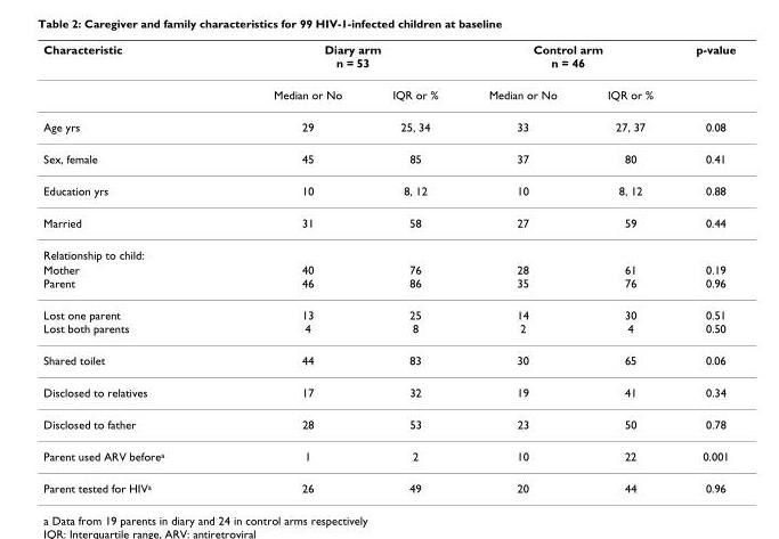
<table><thead><tr><td rowspan="2">Characteristic</td><td colspan="2">Diary arm n = 53</td><td colspan="2">Control arm n = 46</td><td rowspan="2">p-value</td></tr><tr><td>Median or No</td><td>IQR or %</td><td>Median or No</td><td>IQR or %</td></tr></thead><tbody><tr><td>Age yrs</td><td>29</td><td>25, 34</td><td>33</td><td>27, 37</td><td>0.08</td></tr><tr><td>Sex, female</td><td>45</td><td>85</td><td>37</td><td>80</td><td>0.41</td></tr><tr><td>Education yrs</td><td>10</td><td>8, 12</td><td>10</td><td>8, 12</td><td>0.88</td></tr><tr><td>Married</td><td>31</td><td>58</td><td>27</td><td>59</td><td>0.44</td></tr><tr><td colspan="6">Relationship to child:</td></tr><tr><td>Mother Parent</td><td>40 46</td><td>76 86</td><td>28 35</td><td>61 76</td><td>0.19 0.96</td></tr><tr><td>Lost one parent Lost both parents</td><td>13 4</td><td>25 8</td><td>14 2</td><td>30 4</td><td>0.51 0.50</td></tr><tr><td>Shared toilet</td><td>44</td><td>83</td><td>30</td><td>65</td><td>0.06</td></tr><tr><td>Disclosed to relatives</td><td>17</td><td>32</td><td>19</td><td>41</td><td>0.34</td></tr><tr><td>Disclosed to father</td><td>28</td><td>53</td><td>23</td><td>50</td><td>0.78</td></tr><tr><td>Parent used ARV before<sup>a</sup></td><td>1</td><td>2</td><td>10</td><td>22</td><td>0.001</td></tr><tr><td>Parent tested for HIV<sup>a</sup></td><td>26</td><td>49</td><td>20</td><td>44</td><td>0.96</td></tr></tbody></table>